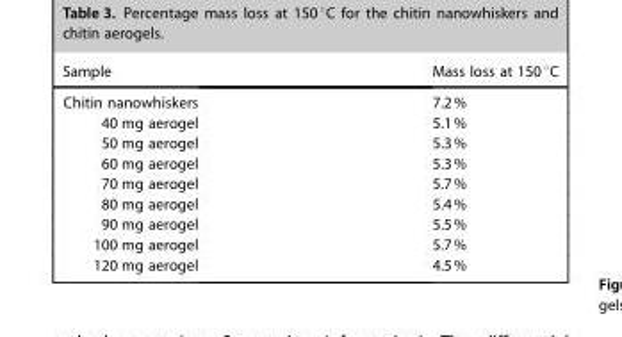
<table><thead><tr><td>Sample</td><td>Mass loss at 150°C</td></tr></thead><tbody><tr><td>Chitin nanowhiskers</td><td>7.2%</td></tr><tr><td>40 mg aerogel</td><td>5.1%</td></tr><tr><td>50 mg aerogel</td><td>5.3%</td></tr><tr><td>60 mg aerogel</td><td>5.3%</td></tr><tr><td>70 mg aerogel</td><td>5.7%</td></tr><tr><td>80 mg aerogel</td><td>5.4%</td></tr><tr><td>90 mg aerogel</td><td>5.5%</td></tr><tr><td>100 mg aerogel</td><td>5.7%</td></tr><tr><td>120 mg aerogel</td><td>4.5%</td></tr></tbody></table>